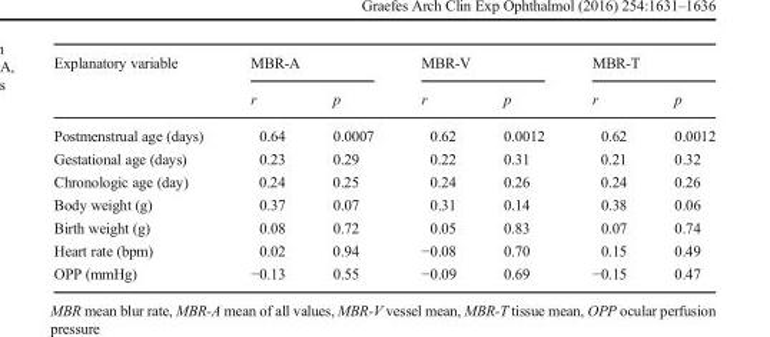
<table><thead><tr><td rowspan="2">Explanatory variable</td><td colspan="2">MBR-A</td><td colspan="2">MBR-V</td><td colspan="2">MBR-T</td></tr><tr><td>r</td><td>p</td><td>r</td><td>p</td><td>r</td><td>p</td></tr></thead><tbody><tr><td>Postmenstrual age (days)</td><td>0.64</td><td>0.0007</td><td>0.62</td><td>0.0012</td><td>0.62</td><td>0.0012</td></tr><tr><td>Gestational age (days)</td><td>0.23</td><td>0.29</td><td>0.22</td><td>0.31</td><td>0.21</td><td>0.32</td></tr><tr><td>Chronologic age (day)</td><td>0.24</td><td>0.25</td><td>0.24</td><td>0.26</td><td>0.24</td><td>0.26</td></tr><tr><td>Body weight (g)</td><td>0.37</td><td>0.07</td><td>0.31</td><td>0.14</td><td>0.38</td><td>0.06</td></tr><tr><td>Birth weight (g)</td><td>0.08</td><td>0.72</td><td>0.05</td><td>0.83</td><td>0.07</td><td>0.74</td></tr><tr><td>Heart rate (bpm)</td><td>0.02</td><td>0.94</td><td>−0.08</td><td>0.70</td><td>0.15</td><td>0.49</td></tr><tr><td>OPP (mmHg)</td><td>−0.13</td><td>0.55</td><td>−0.09</td><td>0.69</td><td>−0.15</td><td>0.47</td></tr></tbody></table>